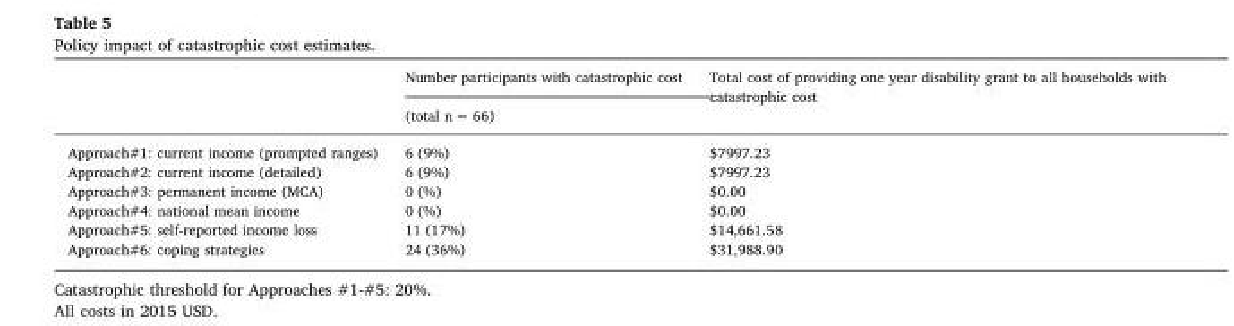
<table><thead><tr><td rowspan="2"></td><td rowspan="2">Number participants with catastrophic cost (total n = 66)</td><td rowspan="2">Total cost of providing one year disability grant to all households with catastrophic cost</td></tr><tr></tr></thead><tbody><tr><td>Approach#1: current income (prompted ranges)</td><td>6 (9%)</td><td>$7997.23</td></tr><tr><td>Approach#2: current income (detailed)</td><td>6 (9%)</td><td>$7997.23</td></tr><tr><td>Approach#3: permanent income (MCA)</td><td>0 (%)</td><td>$0.00</td></tr><tr><td>Approach#4: national mean income</td><td>0 (%)</td><td>$0.00</td></tr><tr><td>Approach#5: self-reported income loss</td><td>11 (17%)</td><td>$14,661.58</td></tr><tr><td>Approach#6: coping strategies</td><td>24 (36%)</td><td>$31,988.90</td></tr></tbody></table>